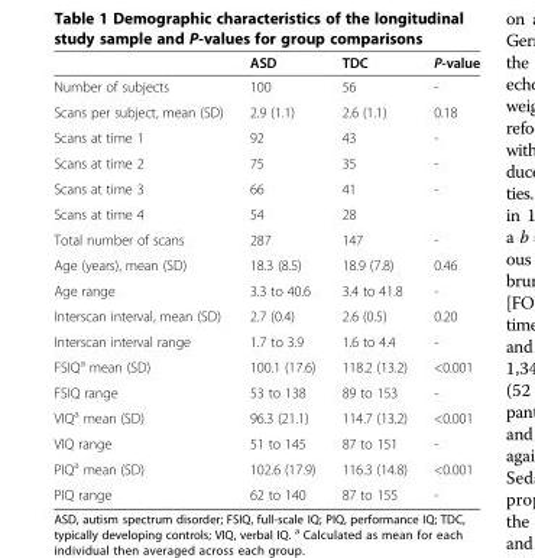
<table><thead><tr><td></td><td>ASD</td><td>TDC</td><td>P-value</td></tr></thead><tbody><tr><td>Number of subjects</td><td>100</td><td>56</td><td>-</td></tr><tr><td>Scans per subject, mean (SD)</td><td>2.9 (1.1)</td><td>2.6 (1.1)</td><td>0.18</td></tr><tr><td>Scans at time 1</td><td>92</td><td>43</td><td>-</td></tr><tr><td>Scans at time 2</td><td>75</td><td>35</td><td>-</td></tr><tr><td>Scans at time 3</td><td>66</td><td>41</td><td>-</td></tr><tr><td>Scans at time 4</td><td>54</td><td>28</td><td></td></tr><tr><td>Total number of scans</td><td>287</td><td>147</td><td>-</td></tr><tr><td>Age (years), mean (SD)</td><td>18.3 (8.5)</td><td>18.9 (7.8)</td><td>0.46</td></tr><tr><td>Age range</td><td>3.3 to 40.6</td><td>3.4 to 41.8</td><td>-</td></tr><tr><td>Interscan interval, mean (SD)</td><td>2.7 (0.4)</td><td>2.6 (0.5)</td><td>0.20</td></tr><tr><td>Interscan interval range</td><td>1.7 to 3.9</td><td>1.6 to 4.4</td><td>-</td></tr><tr><td>FSIQ<sup>a</sup> mean (SD)</td><td>100.1 (17.6)</td><td>118.2 (13.2)</td><td>&lt;0.001</td></tr><tr><td>FSIQ range</td><td>53 to 138</td><td>89 to 153</td><td>-</td></tr><tr><td>VIQ<sup>a</sup> mean (SD)</td><td>96.3 (21.1)</td><td>114.7 (13.2)</td><td>&lt;0.001</td></tr><tr><td>VIQ range</td><td>51 to 145</td><td>87 to 151</td><td>-</td></tr><tr><td>PIQ<sup>a</sup> mean (SD)</td><td>102.6 (17.9)</td><td>116.3 (14.8)</td><td>&lt;0.001</td></tr><tr><td>PIQ range</td><td>62 to 140</td><td>87 to 155</td><td>-</td></tr></tbody></table>